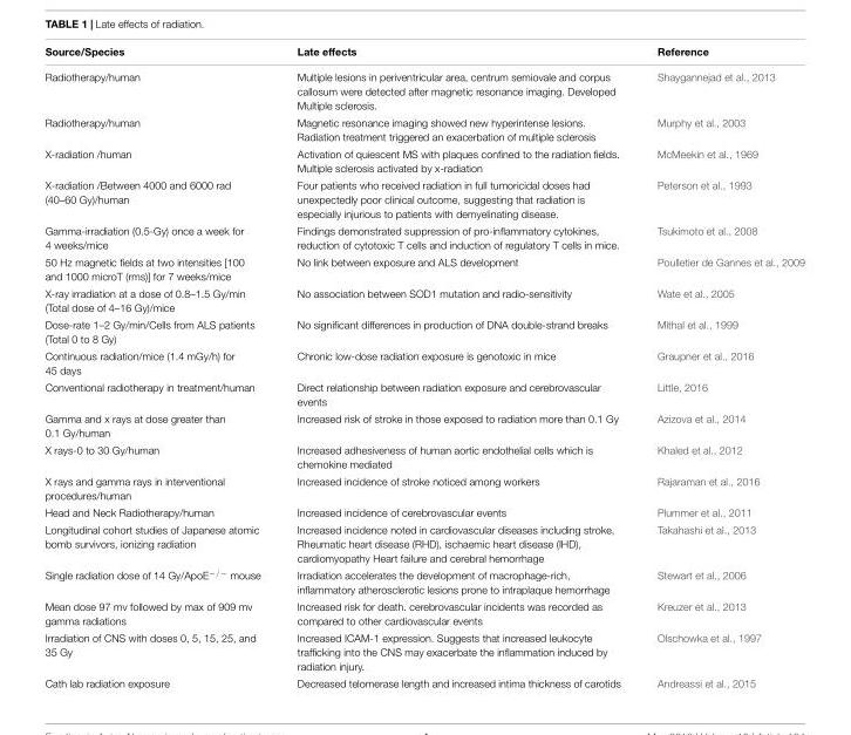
<table><thead><tr><td>Source/Species</td><td>Late effects</td><td>Reference</td></tr></thead><tbody><tr><td>Radiotherapy/human</td><td>Multiple lesions in periventricular area, centrum semiovale and corpus callosum were detected after magnetic resonance imaging. Developed Multiple sclerosis.</td><td>Shaygannejad et al., 2013</td></tr><tr><td>Radiotherapy/human</td><td>Magnetic resonance imaging showed new hyperintense lesions. Radiation treatment triggered an exacerbation of multiple sclerosis</td><td>Murphy et al., 2003</td></tr><tr><td>X-radiation /human</td><td>Activation of quiescent MS with plaques confined to the radiation fields. Multiple sclerosis activated by x-radiation</td><td>McMeekin et al., 1969</td></tr><tr><td>X-radiation /Between 4000 and 6000 rad (40–60 Gy)/human</td><td>Four patients who received radiation in full tumoricidal doses had unexpectedly poor clinical outcome, suggesting that radiation is especially injurious to patients with demyelinating disease.</td><td>Peterson et al., 1993</td></tr><tr><td>Gamma-irradiation (0.5-Gy) once a week for 4 weeks/mice</td><td>Findings demonstrated suppression of pro-inflammatory cytokines, reduction of cytotoxic T cells and induction of regulatory T cells in mice.</td><td>Tsukimoto et al., 2008</td></tr><tr><td>50 Hz magnetic fields at two intensities [100 and 1000 microT (rms)] for 7 weeks/mice</td><td>No link between exposure and ALS development</td><td>Poulletier de Gannes et al., 2009</td></tr><tr><td>X-ray irradiation at a dose of 0.8–1.5 Gy/min (Total dose of 4–16 Gy)/mice</td><td>No association between SOD1 mutation and radio-sensitivity</td><td>Wate et al., 2005</td></tr><tr><td>Dose-rate 1–2 Gy/min/Cells from ALS patients (Total 0 to 8 Gy)</td><td>No significant differences in production of DNA double-strand breaks</td><td>Mithal et al., 1999</td></tr><tr><td>Continuous radiation/mice (1.4 mGy/h) for 45 days</td><td>Chronic low-dose radiation exposure is genotoxic in mice</td><td>Graupner et al., 2016</td></tr><tr><td>Conventional radiotherapy in treatment/human</td><td>Direct relationship between radiation exposure and cerebrovascular events</td><td>Little, 2016</td></tr><tr><td>Gamma and x rays at dose greater than 0.1 Gy/human</td><td>Increased risk of stroke in those exposed to radiation more than 0.1 Gy</td><td>Azizova et al., 2014</td></tr><tr><td>X rays-0 to 30 Gy/human</td><td>Increased adhesiveness of human aortic endothelial cells which is chemokine mediated</td><td>Khaled et al., 2012</td></tr><tr><td>X rays and gamma rays in interventional procedures/human</td><td>Increased incidence of stroke noticed among workers</td><td>Rajaraman et al., 2016</td></tr><tr><td>Head and Neck Radiotherapy/human</td><td>Increased incidence of cerebrovascular events</td><td>Plummer et al., 2011</td></tr><tr><td>Longitudinal cohort studies of Japanese atomic bomb survivors, ionizing radiation</td><td>Increased incidence noted in cardiovascular diseases including stroke, Rheumatic heart disease (RHD), ischaemic heart disease (IHD), cardiomyopathy Heart failure and cerebral hemorrhage</td><td>Takahashi et al., 2013</td></tr><tr><td>Single radiation dose of 14 Gy/ApoE<sup>−/−</sup> mouse</td><td>Irradiation accelerates the development of macrophage-rich, inflammatory atherosclerotic lesions prone to intraplaque hemorrhage</td><td>Stewart et al., 2006</td></tr><tr><td>Mean dose 97 mv followed by max of 909 mv gamma radiations</td><td>Increased risk for death. cerebrovascular incidents was recorded as compared to other cardiovascular events</td><td>Kreuzer et al., 2013</td></tr><tr><td>Irradiation of CNS with doses 0, 5, 15, 25, and 35 Gy</td><td>Increased ICAM-1 expression. Suggests that increased leukocyte trafficking into the CNS may exacerbate the inflammation induced by radiation injury.</td><td>Olschowka et al., 1997</td></tr><tr><td>Cath lab radiation exposure</td><td>Decreased telomerase length and increased intima thickness of carotids</td><td>Andreassi et al., 2015</td></tr></tbody></table>